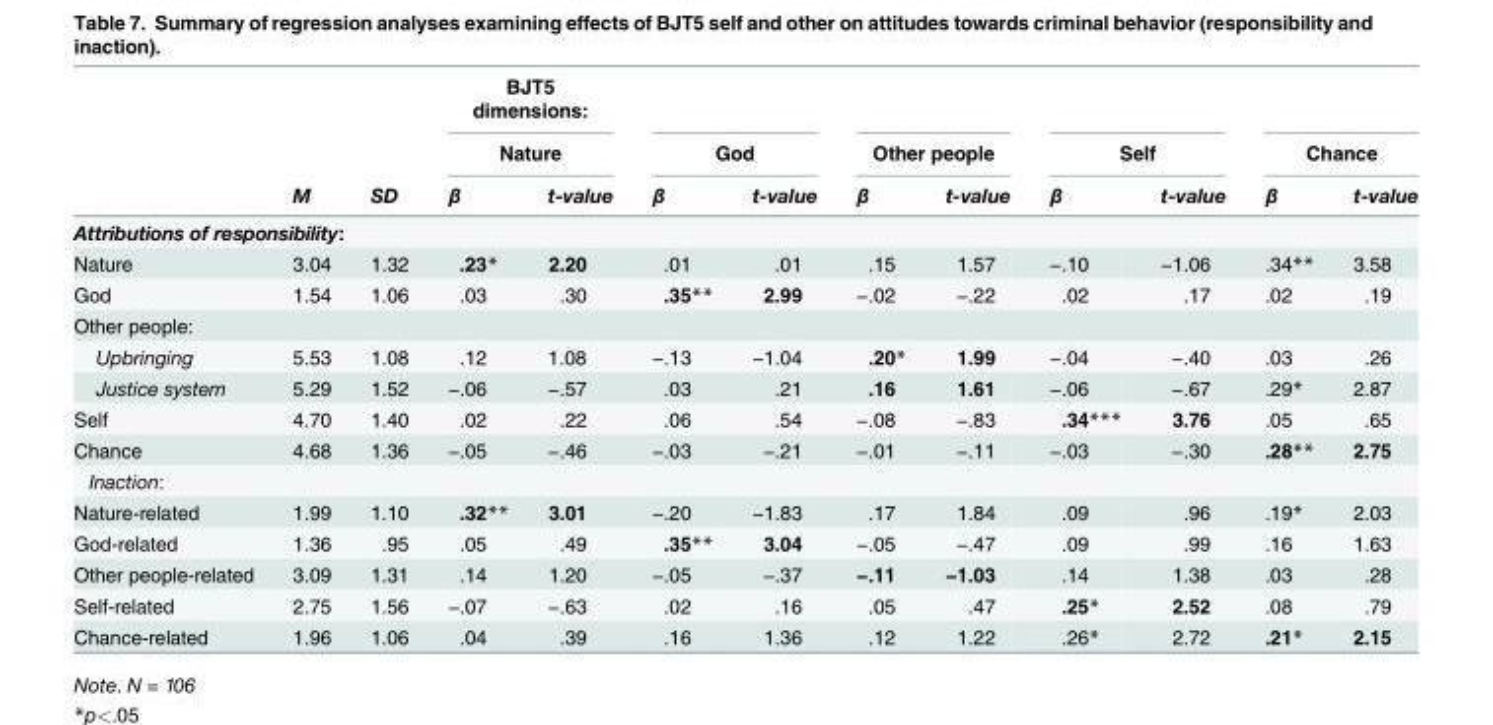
<table><thead><tr><td rowspan="3"></td><td rowspan="3">M</td><td rowspan="3">SD</td><td rowspan="2" colspan="2">BJT5 dimensions: Nature</td><td></td><td></td><td></td><td></td><td></td><td></td><td></td><td></td></tr><tr><td colspan="2">God</td><td colspan="2">Other people</td><td colspan="2">Self</td><td colspan="2">Chance</td></tr><tr><td>β</td><td>t-value</td><td>β</td><td>t-value</td><td>β</td><td>t-value</td><td>β</td><td>t-value</td><td>β</td><td>t-value</td></tr></thead><tbody><tr><td colspan="13">Attributions of responsibility:</td></tr><tr><td>Nature</td><td>3.04</td><td>1.32</td><td>.23*</td><td>2.20</td><td>.01</td><td>.01</td><td>.15</td><td>1.57</td><td>−.10</td><td>−1.06</td><td>.34**</td><td>3.58</td></tr><tr><td>God</td><td>1.54</td><td>1.06</td><td>.03</td><td>.30</td><td>.35**</td><td>2.99</td><td>−.02</td><td>−.22</td><td>.02</td><td>.17</td><td>.02</td><td>.19</td></tr><tr><td colspan="13">Other people:</td></tr><tr><td>Upbringing</td><td>5.53</td><td>1.08</td><td>.12</td><td>1.08</td><td>−.13</td><td>−1.04</td><td>.20*</td><td>1.99</td><td>−.04</td><td>−.40</td><td>.03</td><td>.26</td></tr><tr><td>Justice system</td><td>5.29</td><td>1.52</td><td>−.06</td><td>−.57</td><td>.03</td><td>.21</td><td>.16</td><td>1.61</td><td>−.06</td><td>−.67</td><td>.29*</td><td>2.87</td></tr><tr><td>Self</td><td>4.70</td><td>1.40</td><td>.02</td><td>.22</td><td>.06</td><td>.54</td><td>−.08</td><td>−.83</td><td>.34***</td><td>3.76</td><td>.05</td><td>.65</td></tr><tr><td>Chance</td><td>4.68</td><td>1.36</td><td>−.05</td><td>−.46</td><td>−.03</td><td>−.21</td><td>−.01</td><td>−.11</td><td>−.03</td><td>−.30</td><td>.28**</td><td>2.75</td></tr><tr><td colspan="13">Inaction:</td></tr><tr><td>Nature-related</td><td>1.99</td><td>1.10</td><td>.32**</td><td>3.01</td><td>−.20</td><td>−1.83</td><td>.17</td><td>1.84</td><td>.09</td><td>.96</td><td>.19*</td><td>2.03</td></tr><tr><td>God-related</td><td>1.36</td><td>.95</td><td>.05</td><td>.49</td><td>.35**</td><td>3.04</td><td>−.05</td><td>−.47</td><td>.09</td><td>.99</td><td>.16</td><td>1.63</td></tr><tr><td>Other people-related</td><td>3.09</td><td>1.31</td><td>.14</td><td>1.20</td><td>−.05</td><td>−.37</td><td>−.11</td><td>−1.03</td><td>.14</td><td>1.38</td><td>.03</td><td>.28</td></tr><tr><td>Self-related</td><td>2.75</td><td>1.56</td><td>−.07</td><td>−.63</td><td>.02</td><td>.16</td><td>.05</td><td>.47</td><td>.25*</td><td>2.52</td><td>.08</td><td>.79</td></tr><tr><td>Chance-related</td><td>1.96</td><td>1.06</td><td>.04</td><td>.39</td><td>.16</td><td>1.36</td><td>.12</td><td>1.22</td><td>.26*</td><td>2.72</td><td>.21*</td><td>2.15</td></tr></tbody></table>